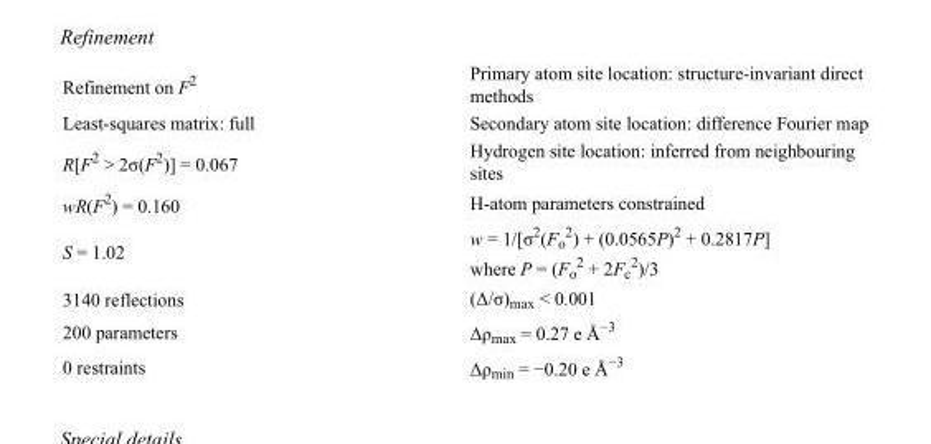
<table><tbody><tr><td>Refinement on F<sup>2</sup></td><td>Primary atom site location: structure-invariant direct methods</td></tr><tr><td>Least-squares matrix: full</td><td>Secondary atom site location: difference Fourier map</td></tr><tr><td>R[F<sup>2</sup> &gt; 2σ(F<sup>2</sup>)] = 0.067</td><td>Hydrogen site location: inferred from neighbouring sites</td></tr><tr><td>wR(F<sup>2</sup>) = 0.160</td><td>H-atom parameters constrained</td></tr><tr><td>S = 1.02</td><td>w = 1/[σ<sup>2</sup>(F<sub>o</sub> <sup>2</sup>) + (0.0565P)<sup>2</sup> + 0.2817P] where P = (F<sub>o</sub> <sup>2</sup> + 2F<sub>c</sub> <sup>2</sup>)/3</td></tr><tr><td>3140 reflections</td><td>(Δ/σ)<sub>max</sub> &lt; 0.001</td></tr><tr><td>200 parameters</td><td>Δρ<sub>max</sub> = 0.27 e Å<sup>−3</sup></td></tr><tr><td>0 restraints</td><td>Δρ<sub>min</sub> = −0.20 e Å<sup>−3</sup></td></tr></tbody></table>